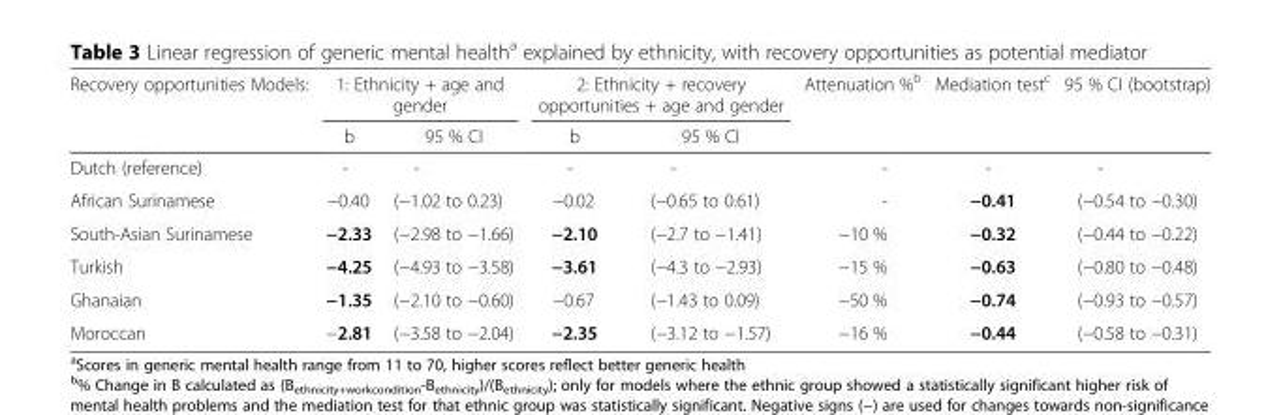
<table><thead><tr><td rowspan="2">Recovery opportunities Models:</td><td colspan="2">1: Ethnicity + age and gender</td><td colspan="2">2: Ethnicity + recovery opportunities + age and gender</td><td rowspan="2">Attenuation %<sup>b</sup></td><td rowspan="2">Mediation test<sup>c</sup></td><td rowspan="2">95 % CI (bootstrap)</td></tr><tr><td>b</td><td>95 % CI</td><td>b</td><td>95 % CI</td></tr></thead><tbody><tr><td>Dutch (reference)</td><td>-</td><td>-</td><td>-</td><td>-</td><td>-</td><td>-</td><td>-</td></tr><tr><td>African Surinamese</td><td>−0.40</td><td>(−1.02 to 0.23)</td><td>−0.02</td><td>(−0.65 to 0.61)</td><td>-</td><td>−0.41</td><td>(−0.54 to −0.30)</td></tr><tr><td>South-Asian Surinamese</td><td>−2.33</td><td>(−2.98 to −1.66)</td><td>−2.10</td><td>(−2.7 to −1.41)</td><td>−10 %</td><td>−0.32</td><td>(−0.44 to −0.22)</td></tr><tr><td>Turkish</td><td>−4.25</td><td>(−4.93 to −3.58)</td><td>−3.61</td><td>(−4.3 to −2.93)</td><td>−15 %</td><td>−0.63</td><td>(−0.80 to −0.48)</td></tr><tr><td>Ghanaian</td><td>−1.35</td><td>(−2.10 to −0.60)</td><td>−0.67</td><td>(−1.43 to 0.09)</td><td>−50 %</td><td>−0.74</td><td>(−0.93 to −0.57)</td></tr><tr><td>Moroccan</td><td>−2.81</td><td>(−3.58 to −2.04)</td><td>−2.35</td><td>(−3.12 to −1.57)</td><td>−16 %</td><td>−0.44</td><td>(−0.58 to −0.31)</td></tr></tbody></table>